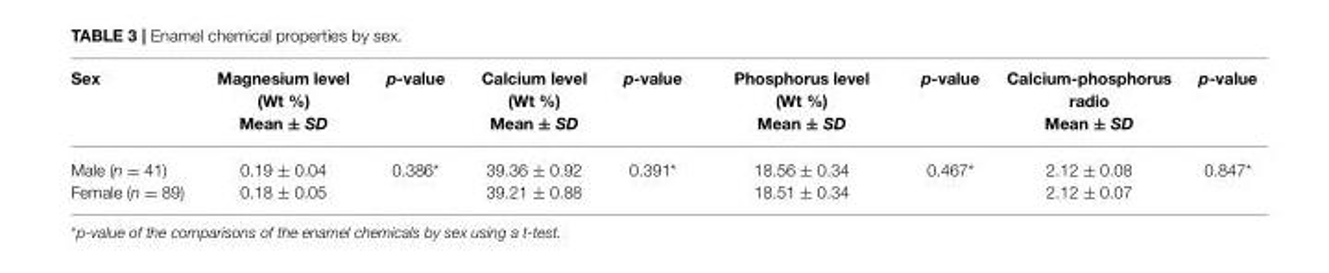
<table><thead><tr><td>Sex</td><td>Magnesium level (Wt %) Mean ± SD</td><td>p-value</td><td>Calcium level (Wt %) Mean ± SD</td><td>p-value</td><td>Phosphorus level (Wt %) Mean ± SD</td><td>p-value</td><td>Calcium-phosphorus radio Mean ± SD</td><td>p-value</td></tr></thead><tbody><tr><td>Male (n = 41) Female (n = 89)</td><td>0.19 ± 0.04 0.18 ± 0.05</td><td>0.386*</td><td>39.36 ± 0.92 39.21 ± 0.88</td><td>0.391*</td><td>18.56 ± 0.34 18.51 ± 0.34</td><td>0.467*</td><td>2.12 ± 0.08 2.12 ± 0.07</td><td>0.847*</td></tr></tbody></table>